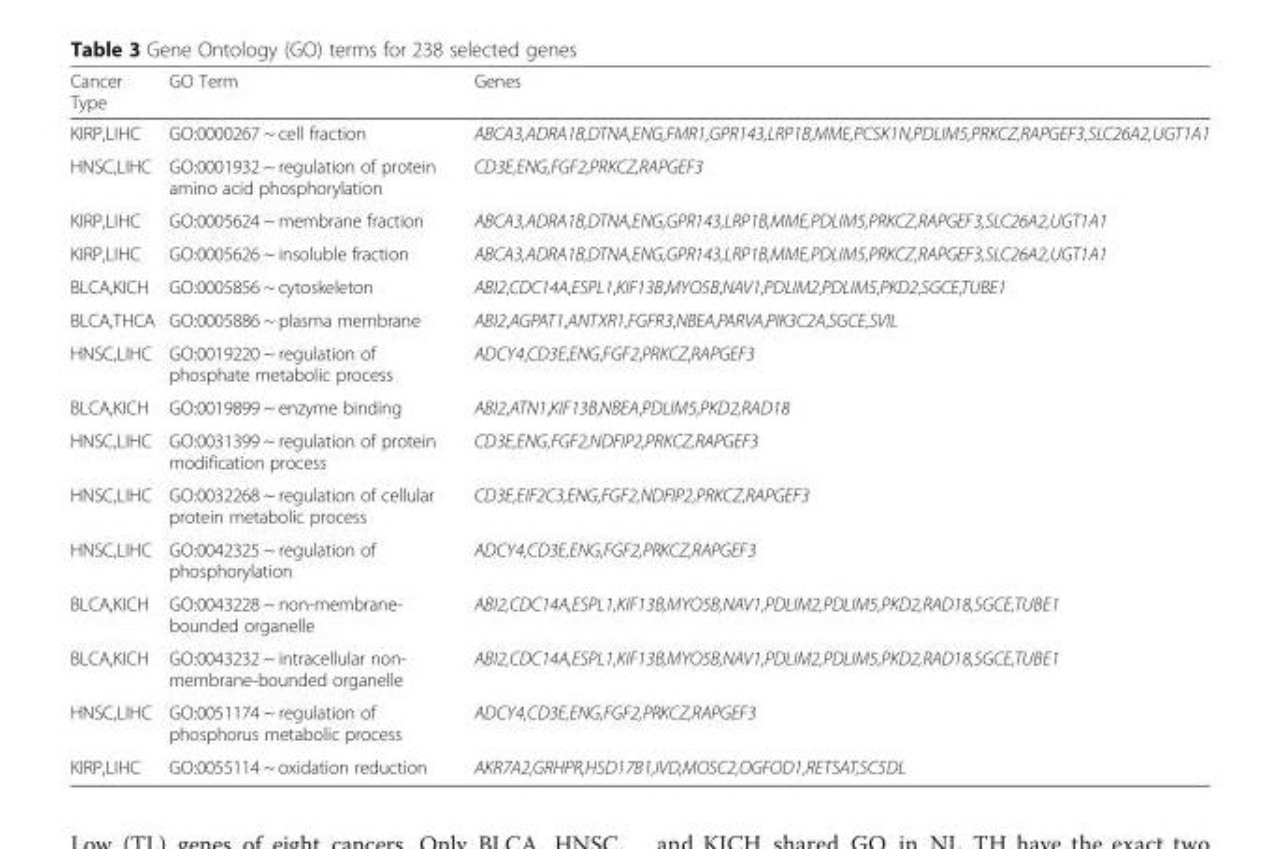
<table><thead><tr><td>Cancer Type</td><td>GO Term</td><td>Genes</td></tr></thead><tbody><tr><td>KIRP,LIHC</td><td>GO:0000267 ~ cell fraction</td><td>ABCA3,ADRA1B,DTNA,ENG,FMR1,GPR143,LRP1B,MME,PCSK1N,PDLIM5,PRKCZ,RAPGEF3,SLC26A2,UGT1A1</td></tr><tr><td>HNSC,LIHC</td><td>GO:0001932 ~ regulation of protein amino acid phosphorylation</td><td>CD3E,ENG,FGF2,PRKCZ,RAPGEF3</td></tr><tr><td>KIRP,LIHC</td><td>GO:0005624 ~ membrane fraction</td><td>ABCA3,ADRA1B,DTNA,ENG,GPR143,LRP1B,MME,PDLIM5,PRKCZ,RAPGEF3,SLC26A2,UGT1A1</td></tr><tr><td>KIRP,LIHC</td><td>GO:0005626 ~ insoluble fraction</td><td>ABCA3,ADRA1B,DTNA,ENG,GPR143,LRP1B,MME,PDLIM5,PRKCZ,RAPGEF3,SLC26A2,UGT1A1</td></tr><tr><td>BLCA,KICH</td><td>GO:0005856 ~ cytoskeleton</td><td>ABI2,CDC14A,ESPL1,KIF13B,MYO5B,NAV1,PDLIM2,PDLIM5,PKD2,SGCE,TUBE1</td></tr><tr><td>BLCA,THCA</td><td>GO:0005886 ~ plasma membrane</td><td>ABI2,AGPAT1,ANTXR1,FGFR3,NBEA,PARVA,PIK3C2A,SGCE,SVIL</td></tr><tr><td>HNSC,LIHC</td><td>GO:0019220 ~ regulation of phosphate metabolic process</td><td>ADCY4,CD3E,ENG,FGF2,PRKCZ,RAPGEF3</td></tr><tr><td>BLCA,KICH</td><td>GO:0019899 ~ enzyme binding</td><td>ABI2,ATN1,KIF13B,NBEA,PDLIM5,PKD2,RAD18</td></tr><tr><td>HNSC,LIHC</td><td>GO:0031399 ~ regulation of protein modification process</td><td>CD3E,ENG,FGF2,NDFIP2,PRKCZ,RAPGEF3</td></tr><tr><td>HNSC,LIHC</td><td>GO:0032268 ~ regulation of cellular protein metabolic process</td><td>CD3E,EIF2C3,ENG,FGF2,NDFIP2,PRKCZ,RAPGEF3</td></tr><tr><td>HNSC,LIHC</td><td>GO:0042325 ~ regulation of phosphorylation</td><td>ADCY4,CD3E,ENG,FGF2,PRKCZ,RAPGEF3</td></tr><tr><td>BLCA,KICH</td><td>GO:0043228 ~ non-membrane- bounded organelle</td><td>ABI2,CDC14A,ESPL1,KIF13B,MYO5B,NAV1,PDLIM2,PDLIM5,PKD2,RAD18,SGCE,TUBE1</td></tr><tr><td>BLCA,KICH</td><td>GO:0043232 ~ intracellular non- membrane-bounded organelle</td><td>ABI2,CDC14A,ESPL1,KIF13B,MYO5B,NAV1,PDLIM2,PDLIM5,PKD2,RAD18,SGCE,TUBE1</td></tr><tr><td>HNSC,LIHC</td><td>GO:0051174 ~ regulation of phosphorus metabolic process</td><td>ADCY4,CD3E,ENG,FGF2,PRKCZ,RAPGEF3</td></tr><tr><td>KIRP,LIHC</td><td>GO:0055114 ~ oxidation reduction</td><td>AKR7A2,GRHPR,HSD17B1,IVD,MOSC2,OGFOD1,RETSAT,SC5DL</td></tr></tbody></table>